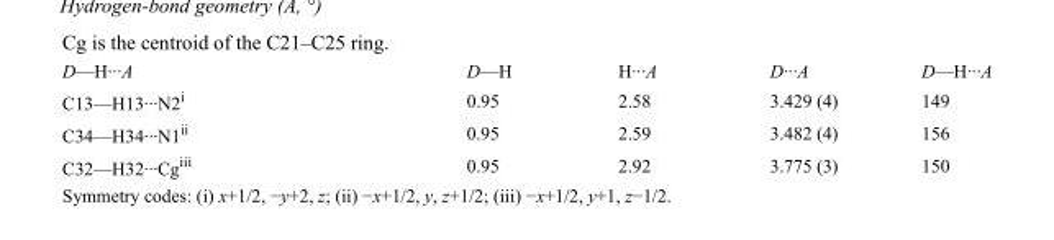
<table><tbody><tr><td>D—H···A</td><td>D—H</td><td>H···A</td><td>D···A</td><td>D—H···A</td></tr><tr><td>C13—H13···N2<sup>i</sup></td><td>0.95</td><td>2.58</td><td>3.429 (4)</td><td>149</td></tr><tr><td>C34—H34···N1<sup>ii</sup></td><td>0.95</td><td>2.59</td><td>3.482 (4)</td><td>156</td></tr><tr><td>C32—H32···Cg<sup>iii</sup></td><td>0.95</td><td>2.92</td><td>3.775 (3)</td><td>150</td></tr></tbody></table>